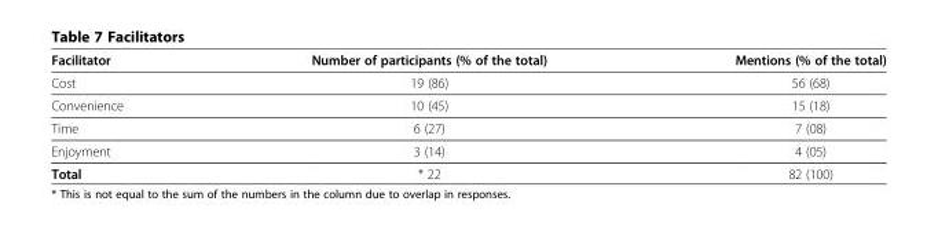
<table><thead><tr><td>Facilitator</td><td>Number of participants (% of the total)</td><td>Mentions (% of the total)</td></tr></thead><tbody><tr><td>Cost</td><td>19 (86)</td><td>56 (68)</td></tr><tr><td>Convenience</td><td>10 (45)</td><td>15 (18)</td></tr><tr><td>Time</td><td>6 (27)</td><td>7 (08)</td></tr><tr><td>Enjoyment</td><td>3 (14)</td><td>4 (05)</td></tr><tr><td>Total</td><td>* 22</td><td>82 (100)</td></tr></tbody></table>